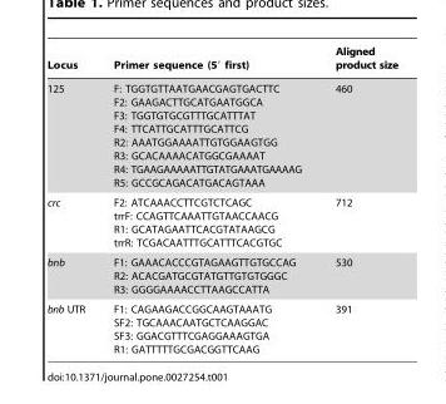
<table><thead><tr><td>Locus</td><td>Primer sequence (5′ first)</td><td>Aligned product size</td></tr></thead><tbody><tr><td>125</td><td>F: TGGTGTTAATGAACGAGTGACTTC F2: GAAGACTTGCATGAATGGCA F3: TGGTGTGCGTTTGCATTTAT F4: TTCATTGCATTTGCATTCG R2: AAATGGAAAATTGTGGAAGTGG R3: GCACAAAACATGGCGAAAAT R4: TGAAGAAAAATTGTATGAAATGAAAAG R5: GCCGCAGACATGACAGTAAA</td><td>460</td></tr><tr><td>crc</td><td>F2: ATCAAACCTTCGTCTCAGC trrF: CCAGTTCAAATTGTAACCAACG R1: GCATAGAATTCACGTATAAGCG trrR: TCGACAATTTGCATTTCACGTGC</td><td>712</td></tr><tr><td>bnb</td><td>F1: GAAACACCCGTAGAAGTTGTGCCAG R2: ACACGATGCGTATGTTGTGTGGGC R3: GGGGAAAACCTTAAGCCATTA</td><td>530</td></tr><tr><td>bnb UTR</td><td>F1: CAGAAGACCGGCAAGTAAATG SF2: TGCAAACAATGCTCAAGGAC SF3: GGACGTTTCGAGGAAAGTGA R1: GATTTTTGCGACGGTTCAAG</td><td>391</td></tr></tbody></table>